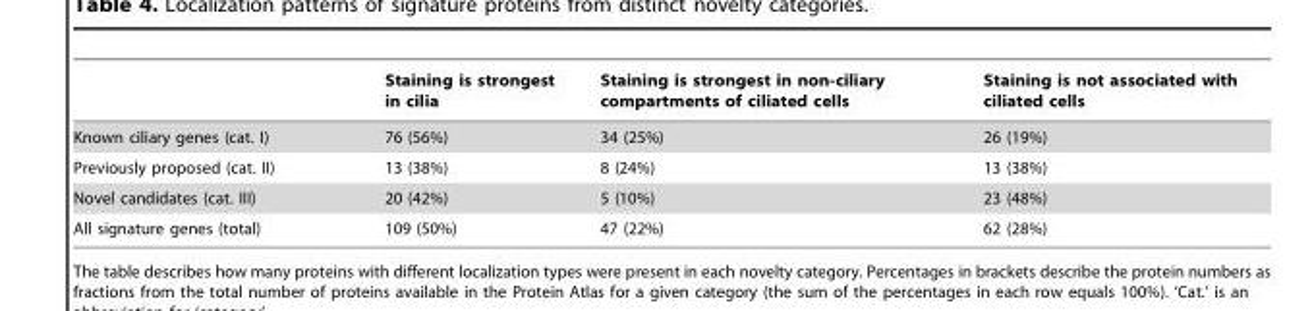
<table><thead><tr><td></td><td>Staining is strongest in cilia</td><td>Staining is strongest in non-ciliary compartments of ciliated cells</td><td>Staining is not associated with ciliated cells</td></tr></thead><tbody><tr><td>Known ciliary genes (cat. I)</td><td>76 (56%)</td><td>34 (25%)</td><td>26 (19%)</td></tr><tr><td>Previously proposed (cat. II)</td><td>13 (38%)</td><td>8 (24%)</td><td>13 (38%)</td></tr><tr><td>Novel candidates (cat. III)</td><td>20 (42%)</td><td>5 (10%)</td><td>23 (48%)</td></tr><tr><td>All signature genes (total)</td><td>109 (50%)</td><td>47 (22%)</td><td>62 (28%)</td></tr></tbody></table>